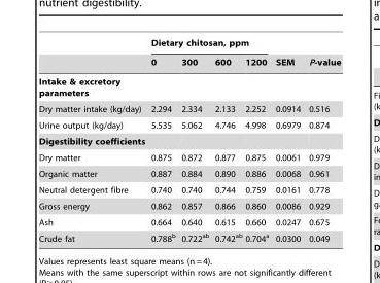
<table><thead><tr><td rowspan="2"></td><td colspan="4">Dietary chitosan, ppm</td><td rowspan="2">SEM</td><td rowspan="2">P-value</td></tr><tr><td>0</td><td>300</td><td>600</td><td>1200</td></tr></thead><tbody><tr><td colspan="7">Intake &amp; excretory parameters</td></tr><tr><td>Dry matter intake (kg/day)</td><td>2.294</td><td>2.334</td><td>2.133</td><td>2.252</td><td>0.0914</td><td>0.516</td></tr><tr><td>Urine output (kg/day)</td><td>5.535</td><td>5.062</td><td>4.746</td><td>4.998</td><td>0.6979</td><td>0.874</td></tr><tr><td colspan="7">Digestibility coefficients</td></tr><tr><td>Dry matter</td><td>0.875</td><td>0.872</td><td>0.877</td><td>0.875</td><td>0.0061</td><td>0.979</td></tr><tr><td>Organic matter</td><td>0.887</td><td>0.884</td><td>0.890</td><td>0.886</td><td>0.0068</td><td>0.961</td></tr><tr><td>Neutral detergent fibre</td><td>0.740</td><td>0.740</td><td>0.744</td><td>0.759</td><td>0.0161</td><td>0.778</td></tr><tr><td>Gross energy</td><td>0.862</td><td>0.857</td><td>0.866</td><td>0.860</td><td>0.0086</td><td>0.929</td></tr><tr><td>Ash</td><td>0.664</td><td>0.640</td><td>0.615</td><td>0.660</td><td>0.0247</td><td>0.675</td></tr><tr><td>Crude fat</td><td>0.788<sup>b</sup></td><td>0.722<sup>ab</sup></td><td>0.742<sup>ab</sup></td><td>0.704<sup>a</sup></td><td>0.0300</td><td>0.049</td></tr></tbody></table>